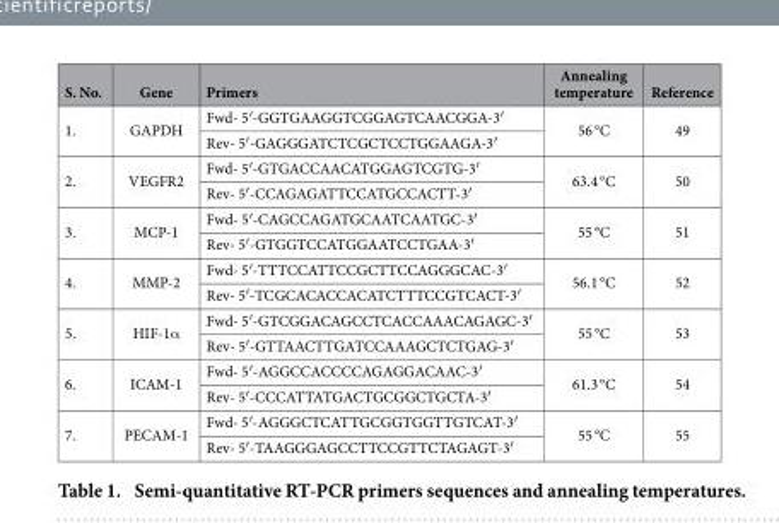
<table><thead><tr><td>S. No.</td><td>Gene</td><td>Primers</td><td>Annealing temperature</td><td>Reference</td></tr></thead><tbody><tr><td rowspan="2">1.</td><td rowspan="2">GAPDH</td><td>Fwd- 5′ -GGTGAAGGTCGGAGTCAACGGA-3′</td><td rowspan="2">56 °C</td><td rowspan="2">49</td></tr><tr><td>Rev- 5′ -GAGGGATCTCGCTCCTGGAAGA-3′</td></tr><tr><td rowspan="2">2.</td><td rowspan="2">VEGFR2</td><td>Fwd- 5′ -GTGACCAACATGGAGTCGTG-3′</td><td rowspan="2">63.4 °C</td><td rowspan="2">50</td></tr><tr><td>Rev- 5′ -CCAGAGATTCCATGCCACTT-3′</td></tr><tr><td rowspan="2">3.</td><td rowspan="2">MCP-1</td><td>Fwd- 5′ -CAGCCAGATGCAATCAATGC-3′</td><td rowspan="2">55 °C</td><td rowspan="2">51</td></tr><tr><td>Rev- 5′ -GTGGTCCATGGAATCCTGAA-3′</td></tr><tr><td rowspan="2">4.</td><td rowspan="2">MMP-2</td><td>Fwd- 5′ -TTTCCATTCCGCTTCCAGGGCAC-3′</td><td rowspan="2">56.1 °C</td><td rowspan="2">52</td></tr><tr><td>Rev- 5′ -TCGCACACCACATCTTTCCGTCACT-3′</td></tr><tr><td rowspan="2">5.</td><td rowspan="2">HIF-1α</td><td>Fwd- 5′ -GTCGGACAGCCTCACCAAACAGAGC-3′</td><td rowspan="2">55 °C</td><td rowspan="2">53</td></tr><tr><td>Rev- 5′ -GTTAACTTGATCCAAAGCTCTGAG-3′</td></tr><tr><td rowspan="2">6.</td><td rowspan="2">ICAM-1</td><td>Fwd- 5′ -AGGCCACCCCAGAGGACAAC-3′</td><td rowspan="2">61.3 °C</td><td rowspan="2">54</td></tr><tr><td>Rev- 5′ -CCCATTATGACTGCGGCTGCTA-3′</td></tr><tr><td rowspan="2">7.</td><td rowspan="2">PECAM-1</td><td>Fwd- 5′ -AGGGCTCATTGCGGTGGTTGTCAT-3′</td><td rowspan="2">55 °C</td><td rowspan="2">55</td></tr><tr><td>Rev- 5′ -TAAGGGAGCCTTCCGTTCTAGAGT-3′</td></tr></tbody></table>